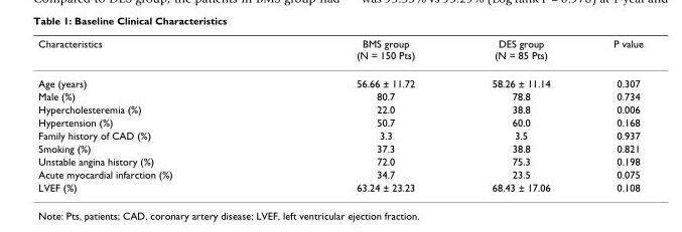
<table><thead><tr><td>Characteristics</td><td>BMS group (N = 150 Pts)</td><td>DES group (N = 85 Pts)</td><td>P value</td></tr></thead><tbody><tr><td>Age (years)</td><td>56.66 ± 11.72</td><td>58.26 ± 11.14</td><td>0.307</td></tr><tr><td>Male (%)</td><td>80.7</td><td>78.8</td><td>0.734</td></tr><tr><td>Hypercholesteremia (%)</td><td>22.0</td><td>38.8</td><td>0.006</td></tr><tr><td>Hypertension (%)</td><td>50.7</td><td>60.0</td><td>0.168</td></tr><tr><td>Family history of CAD (%)</td><td>3.3</td><td>3.5</td><td>0.937</td></tr><tr><td>Smoking (%)</td><td>37.3</td><td>38.8</td><td>0.821</td></tr><tr><td>Unstable angina history (%)</td><td>72.0</td><td>75.3</td><td>0.198</td></tr><tr><td>Acute myocardial infarction (%)</td><td>34.7</td><td>23.5</td><td>0.075</td></tr><tr><td>LVEF (%)</td><td>63.24 ± 23.23</td><td>68.43 ± 17.06</td><td>0.108</td></tr></tbody></table>